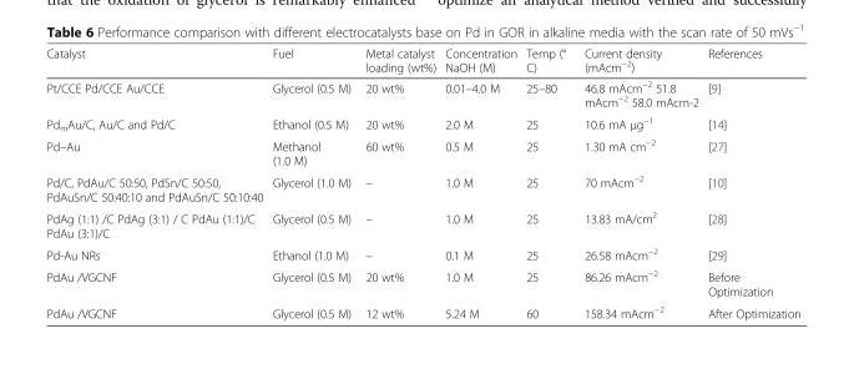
<table><thead><tr><td>Catalyst</td><td>Fuel</td><td>Metal catalyst loading (wt%)</td><td>Concentration NaOH (M)</td><td>Temp (° C)</td><td>Current density (mAcm<sup>−2</sup>)</td><td>References</td></tr></thead><tbody><tr><td>Pt/CCE Pd/CCE Au/CCE</td><td>Glycerol (0.5 M)</td><td>20 wt%</td><td>0.01–4.0 M</td><td>25–80</td><td>46.8 mAcm<sup>−2</sup> 51.8 mAcm<sup>−2</sup> 58.0 mAcm-2</td><td>[9]</td></tr><tr><td>Pd<sub>m</sub>Au/C, Au/C and Pd/C</td><td>Ethanol (0.5 M)</td><td>20 wt%</td><td>2.0 M</td><td>25</td><td>10.6 mA μg<sup>−1</sup></td><td>[14]</td></tr><tr><td>Pd–Au</td><td>Methanol (1.0 M)</td><td>60 wt%</td><td>0.5 M</td><td>25</td><td>1.30 mA cm<sup>−2</sup></td><td>[27]</td></tr><tr><td>Pd/C, PdAu/C 50:50, PdSn/C 50:50, PdAuSn/C 50:40:10 and PdAuSn/C 50:10:40</td><td>Glycerol (1.0 M)</td><td>–</td><td>1.0 M</td><td>25</td><td>70 mAcm<sup>−2</sup></td><td>[10]</td></tr><tr><td>PdAg (1:1) /C PdAg (3:1) / C PdAu (1:1)/C PdAu (3:1)/C</td><td>Glycerol (0.5 M)</td><td>–</td><td>1.0 M</td><td>25</td><td>13.83 mA/cm<sup>2</sup></td><td>[28]</td></tr><tr><td>Pd-Au NRs</td><td>Ethanol (1.0 M)</td><td>–</td><td>0.1 M</td><td>25</td><td>26.58 mAcm<sup>−2</sup></td><td>[29]</td></tr><tr><td>PdAu /VGCNF</td><td>Glycerol (0.5 M)</td><td>20 wt%</td><td>1.0 M</td><td>25</td><td>86.26 mAcm<sup>−2</sup></td><td>Before Optimization</td></tr><tr><td>PdAu /VGCNF</td><td>Glycerol (0.5 M)</td><td>12 wt%</td><td>5.24 M</td><td>60</td><td>158.34 mAcm<sup>−2</sup></td><td>After Optimization</td></tr></tbody></table>